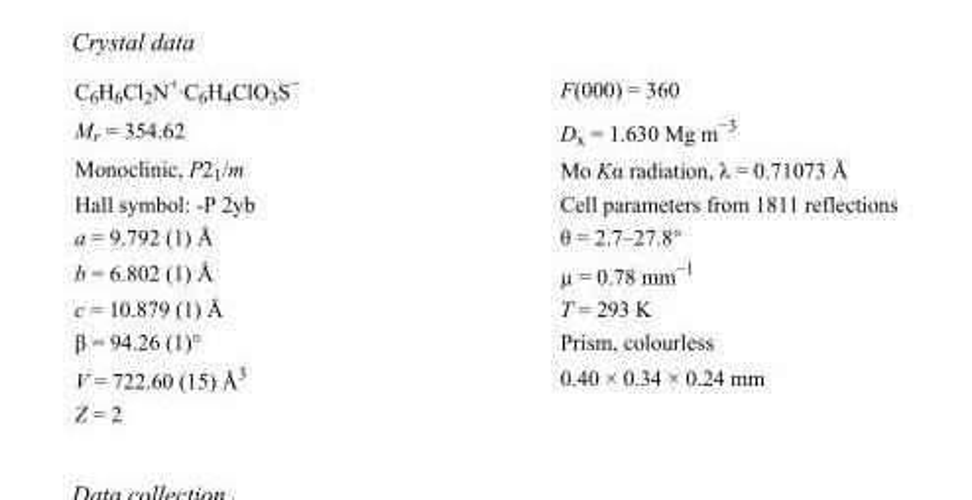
<table><tbody><tr><td>C<sub>6</sub>H<sub>6</sub>Cl<sub>2</sub>N<sup>+</sup>·C<sub>6</sub>H<sub>4</sub>ClO<sub>3</sub>S<sup>−</sup></td><td>F(000) = 360</td></tr><tr><td>M<sub>r</sub> = 354.62</td><td>D<sub>x</sub> = 1.630 Mg m<sup>−3</sup></td></tr><tr><td>Monoclinic, P2<sub>1</sub>/m</td><td>Mo Kα radiation, λ = 0.71073 Å</td></tr><tr><td>Hall symbol: -P 2yb</td><td>Cell parameters from 1811 reflections</td></tr><tr><td>a = 9.792 (1) Å</td><td>θ = 2.7–27.8°</td></tr><tr><td>b = 6.802 (1) Å</td><td>µ = 0.78 mm<sup>−1</sup></td></tr><tr><td>c = 10.879 (1) Å</td><td>T = 293 K</td></tr><tr><td>β = 94.26 (1)°</td><td>Prism, colourless</td></tr><tr><td>V = 722.60 (15) Å<sup>3</sup></td><td>0.40 × 0.34 × 0.24 mm</td></tr><tr><td>Z = 2</td><td></td></tr></tbody></table>